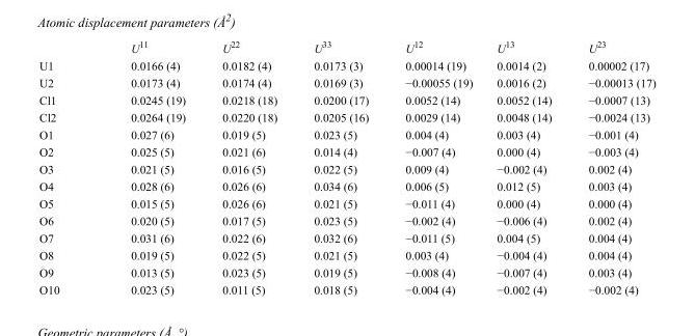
<table><thead><tr><td></td><td>U<sup>11</sup></td><td>U<sup>22</sup></td><td>U<sup>33</sup></td><td>U<sup>12</sup></td><td>U<sup>13</sup></td><td>U<sup>23</sup></td></tr></thead><tbody><tr><td>U1</td><td>0.0166 (4)</td><td>0.0182 (4)</td><td>0.0173 (3)</td><td>0.00014 (19)</td><td>0.0014 (2)</td><td>0.00002 (17)</td></tr><tr><td>U2</td><td>0.0173 (4)</td><td>0.0174 (4)</td><td>0.0169 (3)</td><td>−0.00055 (19)</td><td>0.0016 (2)</td><td>−0.00013 (17)</td></tr><tr><td>Cl1</td><td>0.0245 (19)</td><td>0.0218 (18)</td><td>0.0200 (17)</td><td>0.0052 (14)</td><td>0.0052 (14)</td><td>−0.0007 (13)</td></tr><tr><td>Cl2</td><td>0.0264 (19)</td><td>0.0220 (18)</td><td>0.0205 (16)</td><td>0.0029 (14)</td><td>0.0048 (14)</td><td>−0.0024 (13)</td></tr><tr><td>O1</td><td>0.027 (6)</td><td>0.019 (5)</td><td>0.023 (5)</td><td>0.004 (4)</td><td>0.003 (4)</td><td>−0.001 (4)</td></tr><tr><td>O2</td><td>0.025 (5)</td><td>0.021 (6)</td><td>0.014 (4)</td><td>−0.007 (4)</td><td>0.000 (4)</td><td>−0.003 (4)</td></tr><tr><td>O3</td><td>0.021 (5)</td><td>0.016 (5)</td><td>0.022 (5)</td><td>0.009 (4)</td><td>−0.002 (4)</td><td>0.002 (4)</td></tr><tr><td>O4</td><td>0.028 (6)</td><td>0.026 (6)</td><td>0.034 (6)</td><td>0.006 (5)</td><td>0.012 (5)</td><td>0.003 (4)</td></tr><tr><td>O5</td><td>0.015 (5)</td><td>0.026 (6)</td><td>0.021 (5)</td><td>−0.011 (4)</td><td>0.000 (4)</td><td>0.000 (4)</td></tr><tr><td>O6</td><td>0.020 (5)</td><td>0.017 (5)</td><td>0.023 (5)</td><td>−0.002 (4)</td><td>−0.006 (4)</td><td>0.002 (4)</td></tr><tr><td>O7</td><td>0.031 (6)</td><td>0.022 (6)</td><td>0.032 (6)</td><td>−0.011 (5)</td><td>0.004 (5)</td><td>0.004 (4)</td></tr><tr><td>O8</td><td>0.019 (5)</td><td>0.022 (5)</td><td>0.021 (5)</td><td>0.003 (4)</td><td>−0.004 (4)</td><td>0.004 (4)</td></tr><tr><td>O9</td><td>0.013 (5)</td><td>0.023 (5)</td><td>0.019 (5)</td><td>−0.008 (4)</td><td>−0.007 (4)</td><td>0.003 (4)</td></tr><tr><td>O10</td><td>0.023 (5)</td><td>0.011 (5)</td><td>0.018 (5)</td><td>−0.004 (4)</td><td>−0.002 (4)</td><td>−0.002 (4)</td></tr></tbody></table>